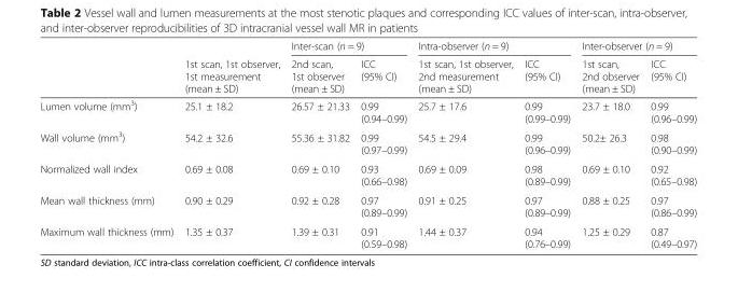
<table><thead><tr><td rowspan="2"></td><td rowspan="2">1st scan, 1st observer, 1st measurement (mean ± SD)</td><td colspan="2">Inter-scan (n = 9)</td><td colspan="2">Intra-observer (n = 9)</td><td colspan="2">Inter-observer (n = 9)</td></tr><tr><td>2nd scan, 1st observer (mean ± SD)</td><td>ICC (95% CI)</td><td>1st scan, 1st observer, 2nd measurement (mean ± SD)</td><td>ICC (95% CI)</td><td>1st scan, 2nd observer (mean ± SD)</td><td>ICC (95% CI)</td></tr></thead><tbody><tr><td>Lumen volume (mm<sup>3</sup>)</td><td>25.1 ± 18.2</td><td>26.57 ± 21.33</td><td>0.99 (0.94–0.99)</td><td>25.7 ± 17.6</td><td>0.99 (0.99–0.99)</td><td>23.7 ± 18.0</td><td>0.99 (0.96–0.99)</td></tr><tr><td>Wall volume (mm<sup>3</sup>)</td><td>54.2 ± 32.6</td><td>55.36 ± 31.82</td><td>0.99 (0.97–0.99)</td><td>54.5 ± 29.4</td><td>0.99 (0.96–0.99)</td><td>50.2± 26.3</td><td>0.98 (0.90–0.99)</td></tr><tr><td>Normalized wall index</td><td>0.69 ± 0.08</td><td>0.69 ± 0.10</td><td>0.93 (0.66–0.98)</td><td>0.69 ± 0.09</td><td>0.98 (0.89–0.99)</td><td>0.69 ± 0.10</td><td>0.92 (0.65–0.98)</td></tr><tr><td>Mean wall thickness (mm)</td><td>0.90 ± 0.29</td><td>0.92 ± 0.28</td><td>0.97 (0.89–0.99)</td><td>0.91 ± 0.25</td><td>0.97 (0.89–0.99)</td><td>0.88 ± 0.25</td><td>0.97 (0.86–0.99)</td></tr><tr><td>Maximum wall thickness (mm)</td><td>1.35 ± 0.37</td><td>1.39 ± 0.31</td><td>0.91 (0.59–0.98)</td><td>1.44 ± 0.37</td><td>0.94 (0.76–0.99)</td><td>1.25 ± 0.29</td><td>0.87 (0.49–0.97)</td></tr></tbody></table>